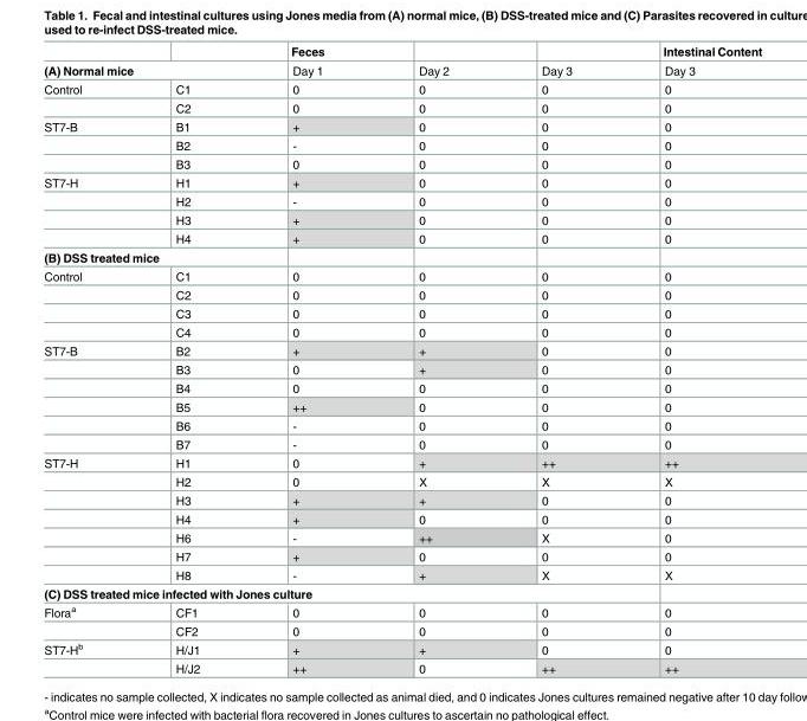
<table><thead><tr><td></td><td></td><td>Feces</td><td></td><td></td><td>Intestinal Content</td></tr></thead><tbody><tr><td colspan="2">(A) Normal mice</td><td>Day 1</td><td>Day 2</td><td>Day 3</td><td>Day 3</td></tr><tr><td rowspan="2">Control</td><td>C1</td><td>0</td><td>0</td><td>0</td><td>0</td></tr><tr><td>C2</td><td>0</td><td>0</td><td>0</td><td>0</td></tr><tr><td rowspan="3">ST7-B</td><td>B1</td><td>+</td><td>0</td><td>0</td><td>0</td></tr><tr><td>B2</td><td>-</td><td>0</td><td>0</td><td>0</td></tr><tr><td>B3</td><td>0</td><td>0</td><td>0</td><td>0</td></tr><tr><td rowspan="4">ST7-H</td><td>H1</td><td>+</td><td>0</td><td>0</td><td>0</td></tr><tr><td>H2</td><td>-</td><td>0</td><td>0</td><td>0</td></tr><tr><td>H3</td><td>+</td><td>0</td><td>0</td><td>0</td></tr><tr><td>H4</td><td>+</td><td>0</td><td>0</td><td>0</td></tr><tr><td colspan="6">(B) DSS treated mice</td></tr><tr><td rowspan="4">Control</td><td>C1</td><td>0</td><td>0</td><td>0</td><td>0</td></tr><tr><td>C2</td><td>0</td><td>0</td><td>0</td><td>0</td></tr><tr><td>C3</td><td>0</td><td>0</td><td>0</td><td>0</td></tr><tr><td>C4</td><td>0</td><td>0</td><td>0</td><td>0</td></tr><tr><td rowspan="6">ST7-B</td><td>B2</td><td>+</td><td>+</td><td>0</td><td>0</td></tr><tr><td>B3</td><td>0</td><td>+</td><td>0</td><td>0</td></tr><tr><td>B4</td><td>0</td><td>0</td><td>0</td><td>0</td></tr><tr><td>B5</td><td>++</td><td>0</td><td>0</td><td>0</td></tr><tr><td>B6</td><td>-</td><td>0</td><td>0</td><td>0</td></tr><tr><td>B7</td><td>-</td><td>0</td><td>0</td><td>0</td></tr><tr><td rowspan="7">ST7-H</td><td>H1</td><td>0</td><td>+</td><td>++</td><td>++</td></tr><tr><td>H2</td><td>0</td><td>X</td><td>X</td><td>X</td></tr><tr><td>H3</td><td>+</td><td>+</td><td>0</td><td>0</td></tr><tr><td>H4</td><td>+</td><td>0</td><td>0</td><td>0</td></tr><tr><td>H6</td><td>-</td><td>++</td><td>X</td><td>0</td></tr><tr><td>H7</td><td>+</td><td>0</td><td>0</td><td>0</td></tr><tr><td>H8</td><td>-</td><td>+</td><td>X</td><td>X</td></tr><tr><td colspan="6">(C) DSS treated mice infected with Jones culture</td></tr><tr><td rowspan="2">Flora<sup>a</sup></td><td>CF1</td><td>0</td><td>0</td><td>0</td><td>0</td></tr><tr><td>CF2</td><td>0</td><td>0</td><td>0</td><td>0</td></tr><tr><td rowspan="2">ST7-H<sup>b</sup></td><td>H/J1</td><td>+</td><td>+</td><td>0</td><td>0</td></tr><tr><td>H/J2</td><td>++</td><td>0</td><td>++</td><td>++</td></tr></tbody></table>